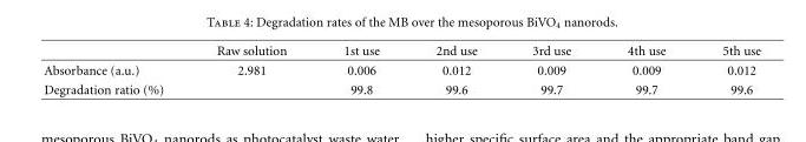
<table><thead><tr><td></td><td>Raw solution</td><td>1st use</td><td>2nd use</td><td>3rd use</td><td>4th use</td><td>5th use</td></tr></thead><tbody><tr><td>Absorbance (a.u.)</td><td>2.981</td><td>0.006</td><td>0.012</td><td>0.009</td><td>0.009</td><td>0.012</td></tr><tr><td>Degradation ratio (%)</td><td></td><td>99.8</td><td>99.6</td><td>99.7</td><td>99.7</td><td>99.6</td></tr></tbody></table>